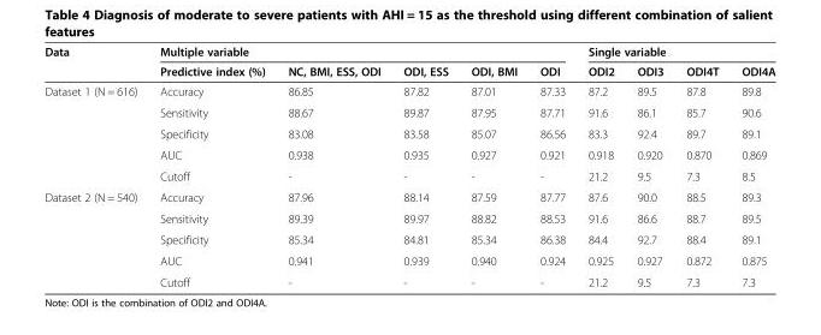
<table><thead><tr><td rowspan="2">Data</td><td colspan="5">Multiple variable</td><td colspan="4">Single variable</td></tr><tr><td>Predictive index (%)</td><td>NC, BMI, ESS, ODI</td><td>ODI, ESS</td><td>ODI, BMI</td><td>ODI</td><td>ODI2</td><td>ODI3</td><td>ODI4T</td><td>ODI4A</td></tr></thead><tbody><tr><td rowspan="5">Dataset 1 (N = 616)</td><td>Accuracy</td><td>86.85</td><td>87.82</td><td>87.01</td><td>87.33</td><td>87.2</td><td>89.5</td><td>87.8</td><td>89.8</td></tr><tr><td>Sensitivity</td><td>88.67</td><td>89.87</td><td>87.95</td><td>87.71</td><td>91.6</td><td>86.1</td><td>85.7</td><td>90.6</td></tr><tr><td>Specificity</td><td>83.08</td><td>83.58</td><td>85.07</td><td>86.56</td><td>83.3</td><td>92.4</td><td>89.7</td><td>89.1</td></tr><tr><td>AUC</td><td>0.938</td><td>0.935</td><td>0.927</td><td>0.921</td><td>0.918</td><td>0.920</td><td>0.870</td><td>0.869</td></tr><tr><td>Cutoff</td><td>-</td><td>-</td><td>-</td><td>-</td><td>21.2</td><td>9.5</td><td>7.3</td><td>8.5</td></tr><tr><td rowspan="5">Dataset 2 (N = 540)</td><td>Accuracy</td><td>87.96</td><td>88.14</td><td>87.59</td><td>87.77</td><td>87.6</td><td>90.0</td><td>88.5</td><td>89.3</td></tr><tr><td>Sensitivity</td><td>89.39</td><td>89.97</td><td>88.82</td><td>88.53</td><td>91.6</td><td>86.6</td><td>88.7</td><td>89.5</td></tr><tr><td>Specificity</td><td>85.34</td><td>84.81</td><td>85.34</td><td>86.38</td><td>84.4</td><td>92.7</td><td>88.4</td><td>89.1</td></tr><tr><td>AUC</td><td>0.941</td><td>0.939</td><td>0.940</td><td>0.924</td><td>0.925</td><td>0.927</td><td>0.872</td><td>0.875</td></tr><tr><td>Cutoff</td><td>-</td><td>-</td><td>-</td><td>-</td><td>21.2</td><td>9.5</td><td>7.3</td><td>7.3</td></tr></tbody></table>